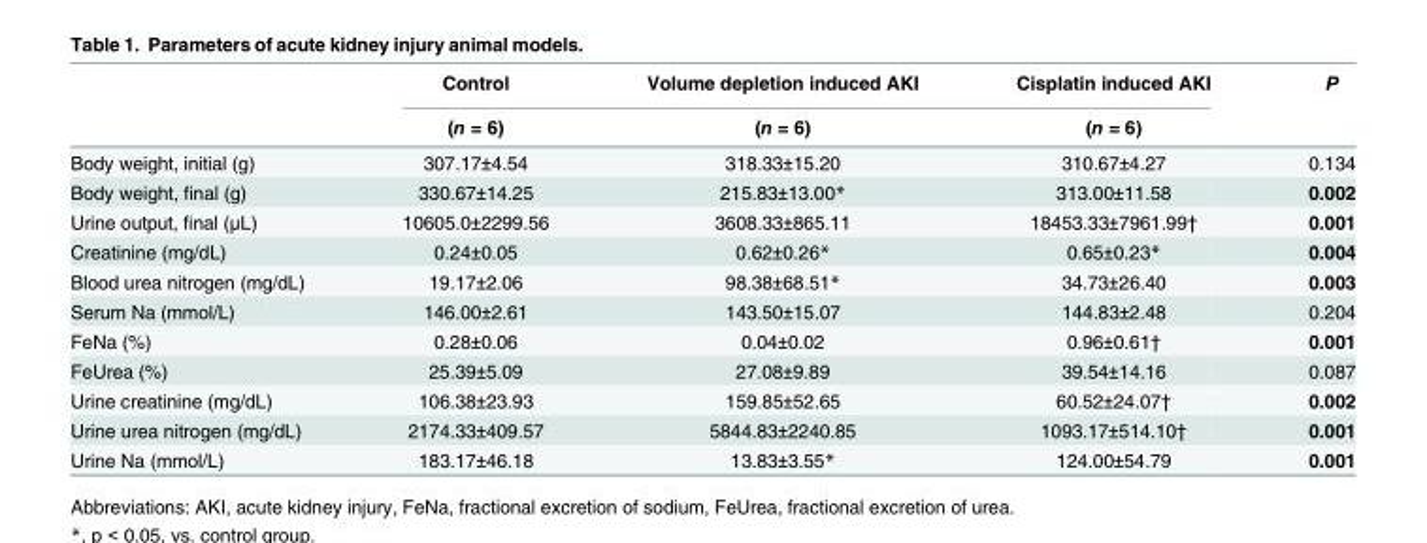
<table><thead><tr><td rowspan="2"></td><td rowspan="2">Control (n = 6)</td><td rowspan="2">Volume depletion induced AKI (n = 6)</td><td rowspan="2">Cisplatin induced AKI (n = 6)</td><td rowspan="2">P</td></tr><tr></tr></thead><tbody><tr><td>Body weight, initial (g)</td><td>307.17±4.54</td><td>318.33±15.20</td><td>310.67±4.27</td><td>0.134</td></tr><tr><td>Body weight, final (g)</td><td>330.67±14.25</td><td>215.83±13.00*</td><td>313.00±11.58</td><td>0.002</td></tr><tr><td>Urine output, final (μL)</td><td>10605.0±2299.56</td><td>3608.33±865.11</td><td>18453.33±7961.99†</td><td>0.001</td></tr><tr><td>Creatinine (mg/dL)</td><td>0.24±0.05</td><td>0.62±0.26*</td><td>0.65±0.23*</td><td>0.004</td></tr><tr><td>Blood urea nitrogen (mg/dL)</td><td>19.17±2.06</td><td>98.38±68.51*</td><td>34.73±26.40</td><td>0.003</td></tr><tr><td>Serum Na (mmol/L)</td><td>146.00±2.61</td><td>143.50±15.07</td><td>144.83±2.48</td><td>0.204</td></tr><tr><td>FeNa (%)</td><td>0.28±0.06</td><td>0.04±0.02</td><td>0.96±0.61†</td><td>0.001</td></tr><tr><td>FeUrea (%)</td><td>25.39±5.09</td><td>27.08±9.89</td><td>39.54±14.16</td><td>0.087</td></tr><tr><td>Urine creatinine (mg/dL)</td><td>106.38±23.93</td><td>159.85±52.65</td><td>60.52±24.07†</td><td>0.002</td></tr><tr><td>Urine urea nitrogen (mg/dL)</td><td>2174.33±409.57</td><td>5844.83±2240.85</td><td>1093.17±514.10†</td><td>0.001</td></tr><tr><td>Urine Na (mmol/L)</td><td>183.17±46.18</td><td>13.83±3.55*</td><td>124.00±54.79</td><td>0.001</td></tr></tbody></table>